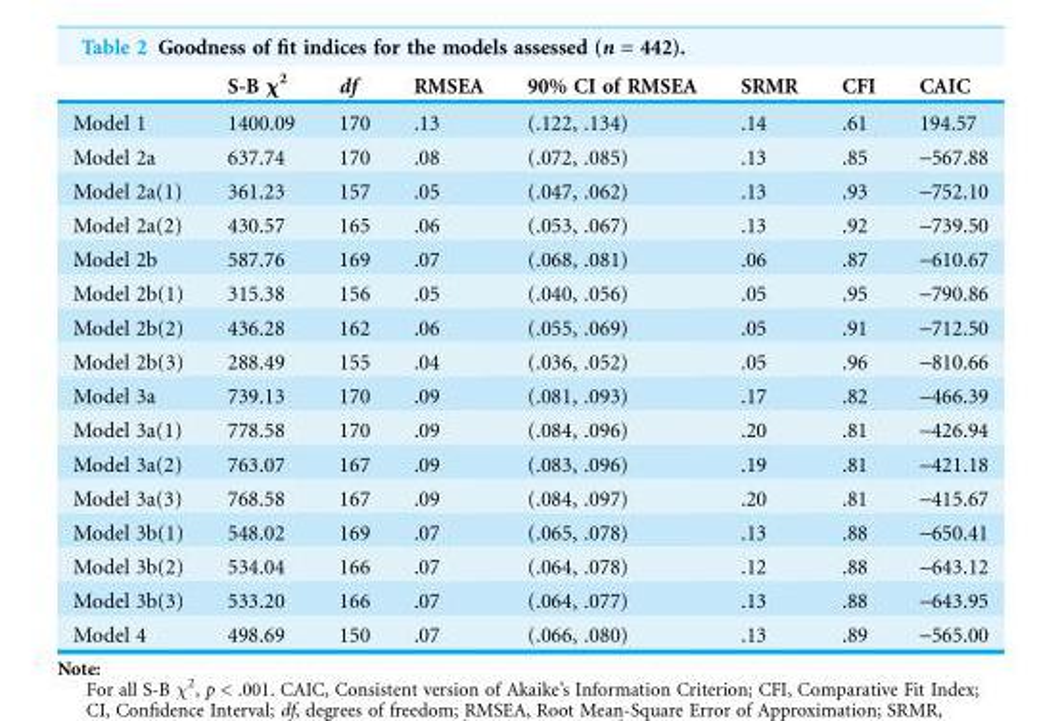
<table><thead><tr><td></td><td>S-B χ<sup>2</sup></td><td>df</td><td>RMSEA</td><td>90% CI of RMSEA</td><td>SRMR</td><td>CFI</td><td>CAIC</td></tr></thead><tbody><tr><td>Model 1</td><td>1400.09</td><td>170</td><td>.13</td><td>(.122, .134)</td><td>.14</td><td>.61</td><td>194.57</td></tr><tr><td>Model 2a</td><td>637.74</td><td>170</td><td>.08</td><td>(.072, .085)</td><td>.13</td><td>.85</td><td>-567.88</td></tr><tr><td>Model 2a(1)</td><td>361.23</td><td>157</td><td>.05</td><td>(.047, .062)</td><td>.13</td><td>.93</td><td>-752.10</td></tr><tr><td>Model 2a(2)</td><td>430.57</td><td>165</td><td>.06</td><td>(.053, .067)</td><td>.13</td><td>.92</td><td>-739.50</td></tr><tr><td>Model 2b</td><td>587.76</td><td>169</td><td>.07</td><td>(.068, .081)</td><td>.06</td><td>.87</td><td>-610.67</td></tr><tr><td>Model 2b(1)</td><td>315.38</td><td>156</td><td>.05</td><td>(.040, .056)</td><td>.05</td><td>.95</td><td>-790.86</td></tr><tr><td>Model 2b(2)</td><td>436.28</td><td>162</td><td>.06</td><td>(.055, .069)</td><td>.05</td><td>.91</td><td>-712.50</td></tr><tr><td>Model 2b(3)</td><td>288.49</td><td>155</td><td>.04</td><td>(.036, .052)</td><td>.05</td><td>.96</td><td>-810.66</td></tr><tr><td>Model 3a</td><td>739.13</td><td>170</td><td>.09</td><td>(.081, .093)</td><td>.17</td><td>.82</td><td>-466.39</td></tr><tr><td>Model 3a(1)</td><td>778.58</td><td>170</td><td>.09</td><td>(.084, .096)</td><td>.20</td><td>.81</td><td>-426.94</td></tr><tr><td>Model 3a(2)</td><td>763.07</td><td>167</td><td>.09</td><td>(.083, .096)</td><td>.19</td><td>.81</td><td>-421.18</td></tr><tr><td>Model 3a(3)</td><td>768.58</td><td>167</td><td>.09</td><td>(.084, .097)</td><td>.20</td><td>.81</td><td>-415.67</td></tr><tr><td>Model 3b(1)</td><td>548.02</td><td>169</td><td>.07</td><td>(.065, .078)</td><td>.13</td><td>.88</td><td>-650.41</td></tr><tr><td>Model 3b(2)</td><td>534.04</td><td>166</td><td>.07</td><td>(.064, .078)</td><td>.12</td><td>.88</td><td>-643.12</td></tr><tr><td>Model 3b(3)</td><td>533.20</td><td>166</td><td>.07</td><td>(.064, .077)</td><td>.13</td><td>.88</td><td>-643.95</td></tr><tr><td>Model 4</td><td>498.69</td><td>150</td><td>.07</td><td>(.066, .080)</td><td>.13</td><td>.89</td><td>-565.00</td></tr></tbody></table>